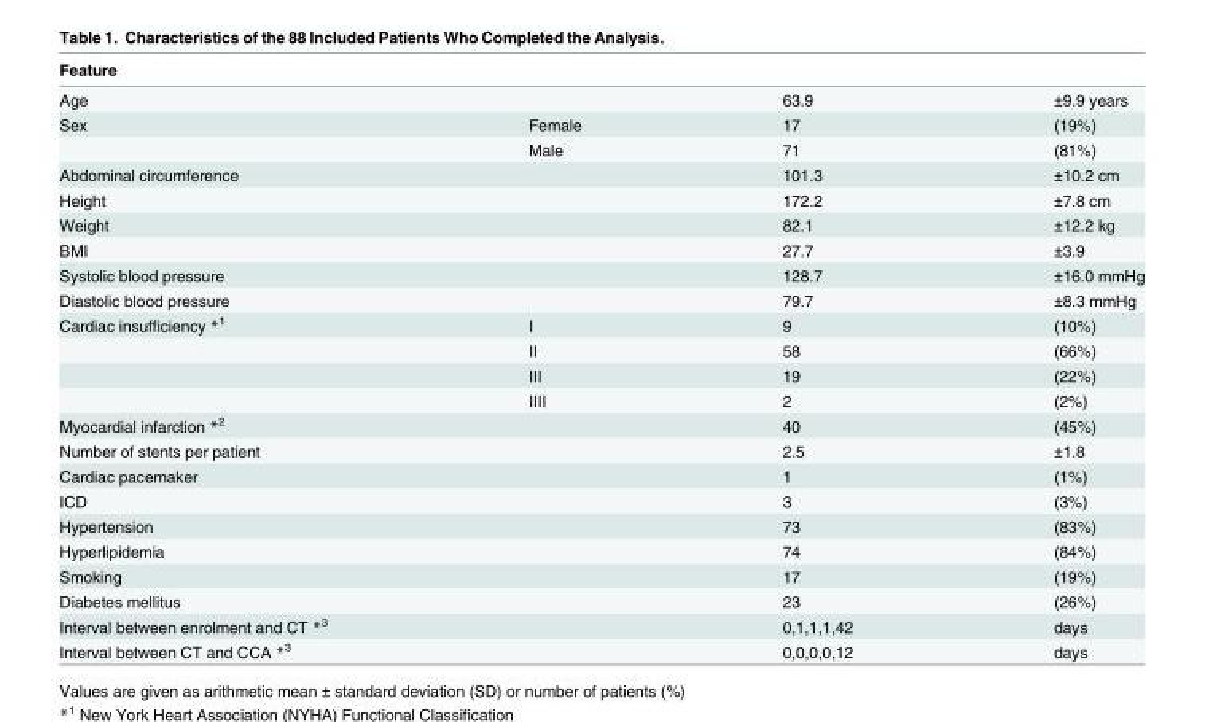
<table><thead><tr><td colspan="4">Feature</td></tr><tr><td>Age</td><td></td><td>63.9</td><td>±9.9 years</td></tr></thead><tbody><tr><td rowspan="2">Sex</td><td>Female</td><td>17</td><td>(19%)</td></tr><tr><td>Male</td><td>71</td><td>(81%)</td></tr><tr><td>Abdominal circumference</td><td></td><td>101.3</td><td>±10.2 cm</td></tr><tr><td>Height</td><td></td><td>172.2</td><td>±7.8 cm</td></tr><tr><td>Weight</td><td></td><td>82.1</td><td>±12.2 kg</td></tr><tr><td>BMI</td><td></td><td>27.7</td><td>±3.9</td></tr><tr><td>Systolic blood pressure</td><td></td><td>128.7</td><td>±16.0 mmHg</td></tr><tr><td>Diastolic blood pressure</td><td></td><td>79.7</td><td>±8.3 mmHg</td></tr><tr><td rowspan="4">Cardiac insufficiency *<sup>1</sup></td><td>I</td><td>9</td><td>(10%)</td></tr><tr><td>II</td><td>58</td><td>(66%)</td></tr><tr><td>III</td><td>19</td><td>(22%)</td></tr><tr><td>IIII</td><td>2</td><td>(2%)</td></tr><tr><td>Myocardial infarction *<sup>2</sup></td><td></td><td>40</td><td>(45%)</td></tr><tr><td>Number of stents per patient</td><td></td><td>2.5</td><td>±1.8</td></tr><tr><td>Cardiac pacemaker</td><td></td><td>1</td><td>(1%)</td></tr><tr><td>ICD</td><td></td><td>3</td><td>(3%)</td></tr><tr><td>Hypertension</td><td></td><td>73</td><td>(83%)</td></tr><tr><td>Hyperlipidemia</td><td></td><td>74</td><td>(84%)</td></tr><tr><td>Smoking</td><td></td><td>17</td><td>(19%)</td></tr><tr><td>Diabetes mellitus</td><td></td><td>23</td><td>(26%)</td></tr><tr><td>Interval between enrolment and CT *<sup>3</sup></td><td></td><td>0,1,1,1,42</td><td>days</td></tr><tr><td>Interval between CT and CCA *<sup>3</sup></td><td></td><td>0,0,0,0,12</td><td>days</td></tr></tbody></table>